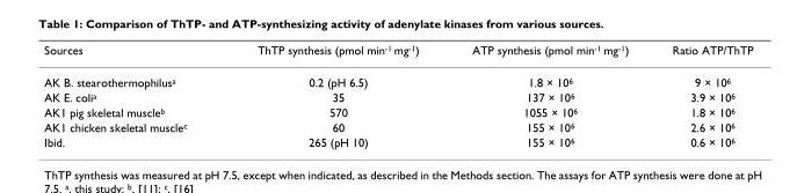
<table><thead><tr><td>Sources</td><td>ThTP synthesis (pmol min<sup>-1</sup> mg<sup>-1</sup>)</td><td>ATP synthesis (pmol min<sup>-1</sup> mg<sup>-1</sup>)</td><td>Ratio ATP/ThTP</td></tr></thead><tbody><tr><td>AK B. stearothermophilus<sup>a</sup></td><td>0.2 (pH 6.5)</td><td>1.8 × 10<sup>6</sup></td><td>9 × 10<sup>6</sup></td></tr><tr><td>AK E. coli<sup>a</sup></td><td>35</td><td>137 × 10<sup>6</sup></td><td>3.9 × 10<sup>6</sup></td></tr><tr><td>AK1 pig skeletal muscle<sup>b</sup></td><td>570</td><td>1055 × 10<sup>6</sup></td><td>1.8 × 10<sup>6</sup></td></tr><tr><td>AK1 chicken skeletal muscle<sup>c</sup></td><td>60</td><td>155 × 10<sup>6</sup></td><td>2.6 × 10<sup>6</sup></td></tr><tr><td>Ibid.</td><td>265 (pH 10)</td><td>155 × 10<sup>6</sup></td><td>0.6 × 10<sup>6</sup></td></tr></tbody></table>